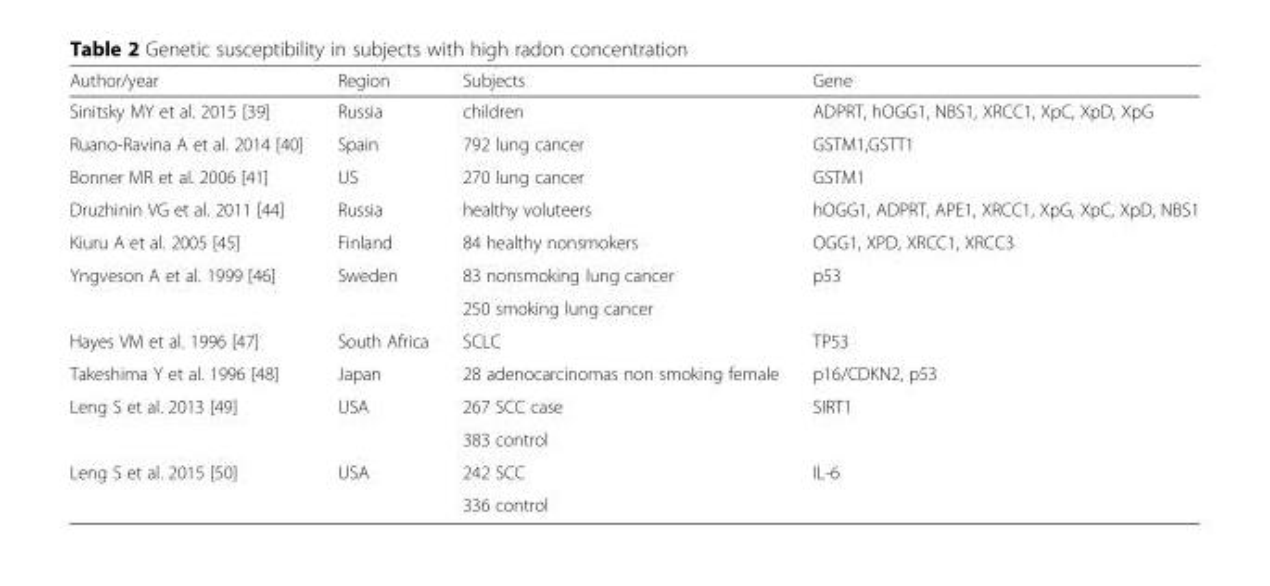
<table><thead><tr><td>Author/year</td><td>Region</td><td>Subjects</td><td>Gene</td></tr></thead><tbody><tr><td>Sinitsky MY et al. 2015 [39]</td><td>Russia</td><td>children</td><td>ADPRT, hOGG1, NBS1, XRCC1, XpC, XpD, XpG</td></tr><tr><td>Ruano-Ravina A et al. 2014 [40]</td><td>Spain</td><td>792 lung cancer</td><td>GSTM1,GSTT1</td></tr><tr><td>Bonner MR et al. 2006 [41]</td><td>US</td><td>270 lung cancer</td><td>GSTM1</td></tr><tr><td>Druzhinin VG et al. 2011 [44]</td><td>Russia</td><td>healthy voluteers</td><td>hOGG1, ADPRT, APE1, XRCC1, XpG, XpC, XpD, NBS1</td></tr><tr><td>Kiuru A et al. 2005 [45]</td><td>Finland</td><td>84 healthy nonsmokers</td><td>OGG1, XPD, XRCC1, XRCC3</td></tr><tr><td rowspan="2">Yngveson A et al. 1999 [46]</td><td rowspan="2">Sweden</td><td>83 nonsmoking lung cancer</td><td rowspan="2">p53</td></tr><tr><td>250 smoking lung cancer</td></tr><tr><td>Hayes VM et al. 1996 [47]</td><td>South Africa</td><td>SCLC</td><td>TP53</td></tr><tr><td>Takeshima Y et al. 1996 [48]</td><td>Japan</td><td>28 adenocarcinomas non smoking female</td><td>p16/CDKN2, p53</td></tr><tr><td rowspan="2">Leng S et al. 2013 [49]</td><td rowspan="2">USA</td><td>267 SCC case</td><td rowspan="2">SIRT1</td></tr><tr><td>383 control</td></tr><tr><td rowspan="2">Leng S et al. 2015 [50]</td><td rowspan="2">USA</td><td>242 SCC</td><td rowspan="2">IL-6</td></tr><tr><td>336 control</td></tr></tbody></table>